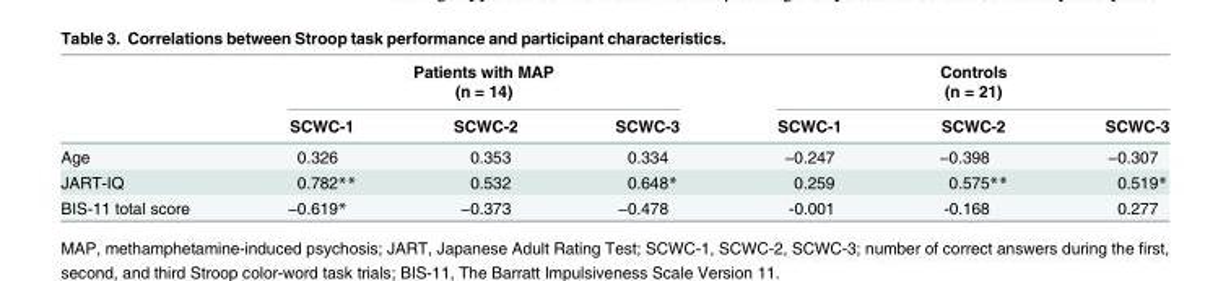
<table><thead><tr><td rowspan="3"></td><td rowspan="2" colspan="3">Patients with MAP (n = 14)</td><td rowspan="2" colspan="3">Controls (n = 21)</td></tr><tr></tr><tr><td>SCWC-1</td><td>SCWC-2</td><td>SCWC-3</td><td>SCWC-1</td><td>SCWC-2</td><td>SCWC-3</td></tr></thead><tbody><tr><td>Age</td><td>0.326</td><td>0.353</td><td>0.334</td><td>−0.247</td><td>−0.398</td><td>−0.307</td></tr><tr><td>JART-IQ</td><td>0.782**</td><td>0.532</td><td>0.648*</td><td>0.259</td><td>0.575**</td><td>0.519*</td></tr><tr><td>BIS-11 total score</td><td>−0.619*</td><td>−0.373</td><td>−0.478</td><td>-0.001</td><td>-0.168</td><td>0.277</td></tr></tbody></table>